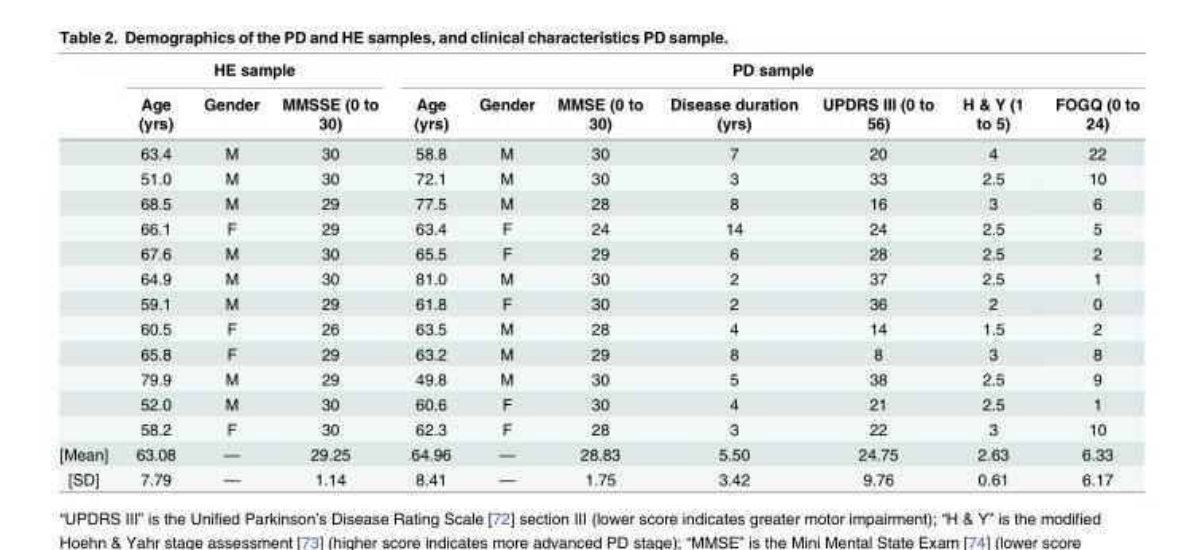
<table><thead><tr><td rowspan="2"></td><td colspan="3">HE sample</td><td colspan="7">PD sample</td></tr><tr><td>Age (yrs)</td><td>Gender</td><td>MMSSE (0 to 30)</td><td>Age (yrs)</td><td>Gender</td><td>MMSE (0 to 30)</td><td>Disease duration (yrs)</td><td>UPDRS III (0 to 56)</td><td>H &amp; Y (1 to 5)</td><td>FOGQ (0 to 24)</td></tr></thead><tbody><tr><td></td><td>63.4</td><td>M</td><td>30</td><td>58.8</td><td>M</td><td>30</td><td>7</td><td>20</td><td>4</td><td>22</td></tr><tr><td></td><td>51.0</td><td>M</td><td>30</td><td>72.1</td><td>M</td><td>30</td><td>3</td><td>33</td><td>2.5</td><td>10</td></tr><tr><td></td><td>68.5</td><td>M</td><td>29</td><td>77.5</td><td>M</td><td>28</td><td>8</td><td>16</td><td>3</td><td>6</td></tr><tr><td></td><td>66.1</td><td>F</td><td>29</td><td>63.4</td><td>F</td><td>24</td><td>14</td><td>24</td><td>2.5</td><td>5</td></tr><tr><td></td><td>67.6</td><td>M</td><td>30</td><td>65.5</td><td>F</td><td>29</td><td>6</td><td>28</td><td>2.5</td><td>2</td></tr><tr><td></td><td>64.9</td><td>M</td><td>30</td><td>81.0</td><td>M</td><td>30</td><td>2</td><td>37</td><td>2.5</td><td>1</td></tr><tr><td></td><td>59.1</td><td>M</td><td>29</td><td>61.8</td><td>F</td><td>30</td><td>2</td><td>36</td><td>2</td><td>0</td></tr><tr><td></td><td>60.5</td><td>F</td><td>26</td><td>63.5</td><td>M</td><td>28</td><td>4</td><td>14</td><td>1.5</td><td>2</td></tr><tr><td></td><td>65.8</td><td>F</td><td>29</td><td>63.2</td><td>M</td><td>29</td><td>8</td><td>8</td><td>3</td><td>8</td></tr><tr><td></td><td>79.9</td><td>M</td><td>29</td><td>49.8</td><td>M</td><td>30</td><td>5</td><td>38</td><td>2.5</td><td>9</td></tr><tr><td></td><td>52.0</td><td>M</td><td>30</td><td>60.6</td><td>F</td><td>30</td><td>4</td><td>21</td><td>2.5</td><td>1</td></tr><tr><td></td><td>58.2</td><td>F</td><td>30</td><td>62.3</td><td>F</td><td>28</td><td>3</td><td>22</td><td>3</td><td>10</td></tr><tr><td>[Mean]</td><td>63.08</td><td>—</td><td>29.25</td><td>64.96</td><td>—</td><td>28.83</td><td>5.50</td><td>24.75</td><td>2.63</td><td>6.33</td></tr><tr><td>[SD]</td><td>7.79</td><td>—</td><td>1.14</td><td>8.41</td><td>—</td><td>1.75</td><td>3.42</td><td>9.76</td><td>0.61</td><td>6.17</td></tr></tbody></table>